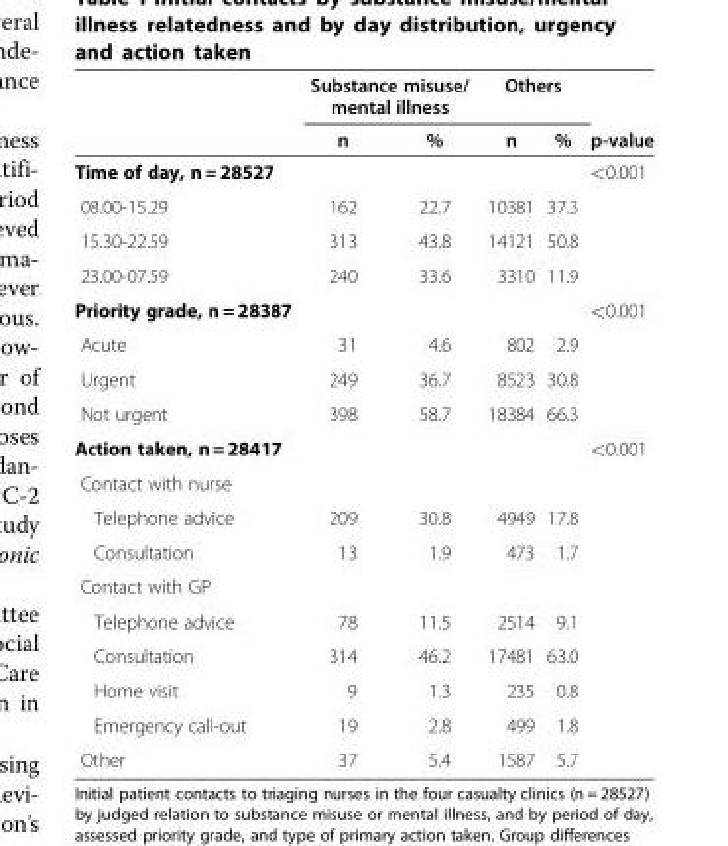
<table><thead><tr><td rowspan="2"></td><td colspan="2">Substance misuse/ mental illness</td><td colspan="2">Others</td><td rowspan="2">p-value</td></tr><tr><td>n</td><td>%</td><td>n</td><td>%</td></tr></thead><tbody><tr><td>Time of day, n = 28527</td><td></td><td></td><td></td><td></td><td>&lt;0.001</td></tr><tr><td>08.00-15.29</td><td>162</td><td>22.7</td><td>10381</td><td>37.3</td><td></td></tr><tr><td>15.30-22.59</td><td>313</td><td>43.8</td><td>14121</td><td>50.8</td><td></td></tr><tr><td>23.00-07.59</td><td>240</td><td>33.6</td><td>3310</td><td>11.9</td><td></td></tr><tr><td>Priority grade, n = 28387</td><td></td><td></td><td></td><td></td><td>&lt;0.001</td></tr><tr><td>Acute</td><td>31</td><td>4.6</td><td>802</td><td>2.9</td><td></td></tr><tr><td>Urgent</td><td>249</td><td>36.7</td><td>8523</td><td>30.8</td><td></td></tr><tr><td>Not urgent</td><td>398</td><td>58.7</td><td>18384</td><td>66.3</td><td></td></tr><tr><td>Action taken, n = 28417</td><td></td><td></td><td></td><td></td><td>&lt;0.001</td></tr><tr><td colspan="6">Contact with nurse</td></tr><tr><td>Telephone advice</td><td>209</td><td>30.8</td><td>4949</td><td>17.8</td><td></td></tr><tr><td>Consultation</td><td>13</td><td>1.9</td><td>473</td><td>1.7</td><td></td></tr><tr><td colspan="6">Contact with GP</td></tr><tr><td>Telephone advice</td><td>78</td><td>11.5</td><td>2514</td><td>9.1</td><td></td></tr><tr><td>Consultation</td><td>314</td><td>46.2</td><td>17481</td><td>63.0</td><td></td></tr><tr><td>Home visit</td><td>9</td><td>1.3</td><td>235</td><td>0.8</td><td></td></tr><tr><td>Emergency call-out</td><td>19</td><td>2.8</td><td>499</td><td>1.8</td><td></td></tr><tr><td>Other</td><td>37</td><td>5.4</td><td>1587</td><td>5.7</td><td></td></tr></tbody></table>